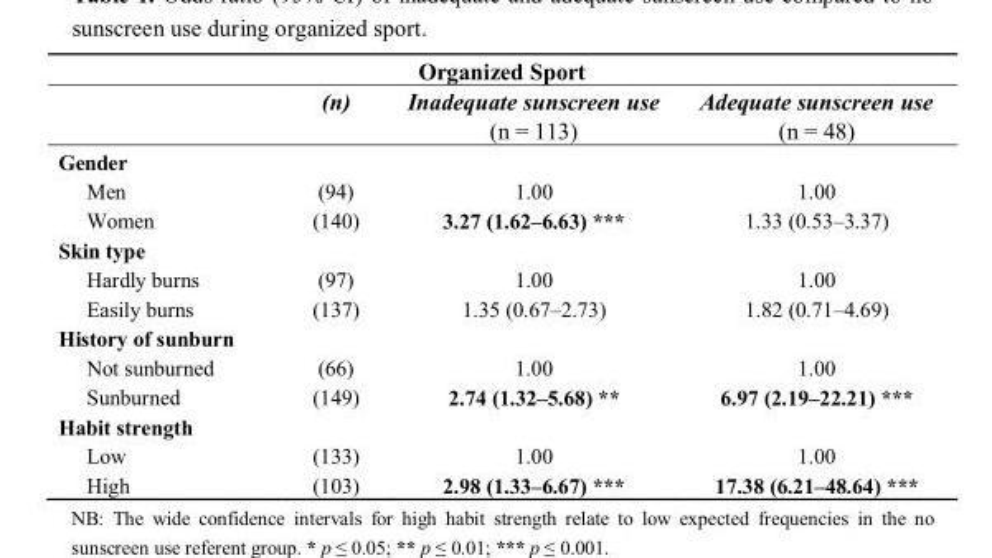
<table><thead><tr><td colspan="4">Organized Sport</td></tr><tr><td></td><td>(n)</td><td>Inadequate sunscreen use (n = 113)</td><td>Adequate sunscreen use (n = 48)</td></tr></thead><tbody><tr><td colspan="4">Gender</td></tr><tr><td>Men</td><td>(94)</td><td>1.00</td><td>1.00</td></tr><tr><td>Women</td><td>(140)</td><td>3.27 (1.62–6.63) ***</td><td>1.33 (0.53–3.37)</td></tr><tr><td colspan="4">Skin type</td></tr><tr><td>Hardly burns</td><td>(97)</td><td>1.00</td><td>1.00</td></tr><tr><td>Easily burns</td><td>(137)</td><td>1.35 (0.67–2.73)</td><td>1.82 (0.71–4.69)</td></tr><tr><td colspan="4">History of sunburn</td></tr><tr><td>Not sunburned</td><td>(66)</td><td>1.00</td><td>1.00</td></tr><tr><td>Sunburned</td><td>(149)</td><td>2.74 (1.32–5.68) **</td><td>6.97 (2.19–22.21) ***</td></tr><tr><td colspan="4">Habit strength</td></tr><tr><td>Low</td><td>(133)</td><td>1.00</td><td>1.00</td></tr><tr><td>High</td><td>(103)</td><td>2.98 (1.33–6.67) ***</td><td>17.38 (6.21–48.64) ***</td></tr></tbody></table>